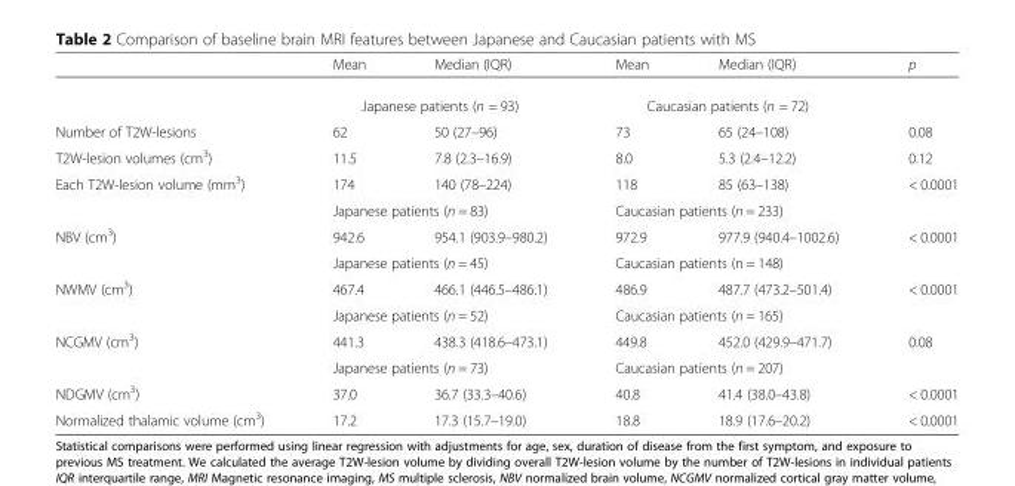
<table><thead><tr><td></td><td>Mean</td><td>Median (IQR)</td><td>Mean</td><td>Median (IQR)</td><td>p</td></tr></thead><tbody><tr><td></td><td colspan="2">Japanese patients (n = 93)</td><td colspan="2">Caucasian patients (n = 72)</td><td></td></tr><tr><td>Number of T2W-lesions</td><td>62</td><td>50 (27–96)</td><td>73</td><td>65 (24–108)</td><td>0.08</td></tr><tr><td>T2W-lesion volumes (cm<sup>3</sup>)</td><td>11.5</td><td>7.8 (2.3–16.9)</td><td>8.0</td><td>5.3 (2.4–12.2)</td><td>0.12</td></tr><tr><td rowspan="2">Each T2W-lesion volume (mm<sup>3</sup>)</td><td>174</td><td>140 (78–224)</td><td>118</td><td>85 (63–138)</td><td>&lt; 0.0001</td></tr><tr><td colspan="2">Japanese patients (n = 83)</td><td colspan="2">Caucasian patients (n = 233)</td><td></td></tr><tr><td rowspan="2">NBV (cm<sup>3</sup>)</td><td>942.6</td><td>954.1 (903.9–980.2)</td><td>972.9</td><td>977.9 (940.4–1002.6)</td><td>&lt; 0.0001</td></tr><tr><td colspan="2">Japanese patients (n = 45)</td><td colspan="2">Caucasian patients (n = 148)</td><td></td></tr><tr><td rowspan="2">NWMV (cm<sup>3</sup>)</td><td>467.4</td><td>466.1 (446.5–486.1)</td><td>486.9</td><td>487.7 (473.2–501.4)</td><td>&lt; 0.0001</td></tr><tr><td colspan="2">Japanese patients (n = 52)</td><td colspan="2">Caucasian patients (n = 165)</td><td></td></tr><tr><td rowspan="2">NCGMV (cm<sup>3</sup>)</td><td>441.3</td><td>438.3 (418.6–473.1)</td><td>449.8</td><td>452.0 (429.9–471.7)</td><td>0.08</td></tr><tr><td colspan="2">Japanese patients (n = 73)</td><td colspan="2">Caucasian patients (n = 207)</td><td></td></tr><tr><td>NDGMV (cm<sup>3</sup>)</td><td>37.0</td><td>36.7 (33.3–40.6)</td><td>40.8</td><td>41.4 (38.0–43.8)</td><td>&lt; 0.0001</td></tr><tr><td>Normalized thalamic volume (cm<sup>3</sup>)</td><td>17.2</td><td>17.3 (15.7–19.0)</td><td>18.8</td><td>18.9 (17.6–20.2)</td><td>&lt; 0.0001</td></tr></tbody></table>